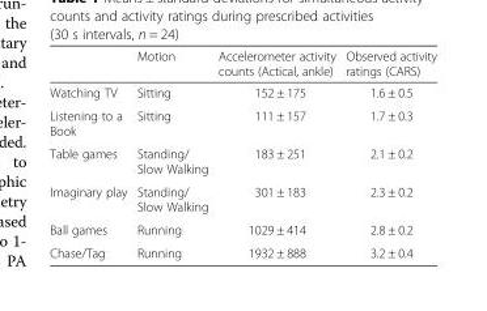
<table><thead><tr><td></td><td>Motion</td><td>Accelerometer activity counts (Actical, ankle)</td><td>Observed activity ratings (CARS)</td></tr></thead><tbody><tr><td>Watching TV</td><td>Sitting</td><td>152 ± 175</td><td>1.6 ± 0.5</td></tr><tr><td>Listening to a Book</td><td>Sitting</td><td>111 ± 157</td><td>1.7 ± 0.3</td></tr><tr><td>Table games</td><td>Standing/ Slow Walking</td><td>183 ± 251</td><td>2.1 ± 0.2</td></tr><tr><td>Imaginary play</td><td>Standing/ Slow Walking</td><td>301 ± 183</td><td>2.3 ± 0.2</td></tr><tr><td>Ball games</td><td>Running</td><td>1029 ± 414</td><td>2.8 ± 0.2</td></tr><tr><td>Chase/Tag</td><td>Running</td><td>1932 ± 888</td><td>3.2 ± 0.4</td></tr></tbody></table>